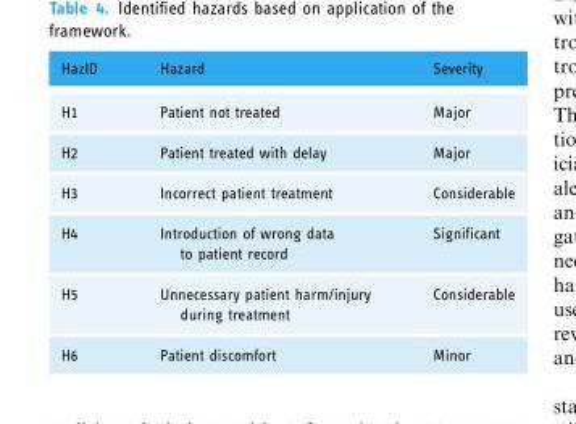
<table><thead><tr><td>HazID</td><td>Hazard</td><td>Severity</td></tr></thead><tbody><tr><td>H1</td><td>Patient not treated</td><td>Major</td></tr><tr><td>H2</td><td>Patient treated with delay</td><td>Major</td></tr><tr><td>H3</td><td>Incorrect patient treatment</td><td>Considerable</td></tr><tr><td>H4</td><td>Introduction of wrong data to patient record</td><td>Significant</td></tr><tr><td>H5</td><td>Unnecessary patient harm/injury during treatment</td><td>Considerable</td></tr><tr><td>H6</td><td>Patient discomfort</td><td>Minor</td></tr></tbody></table>